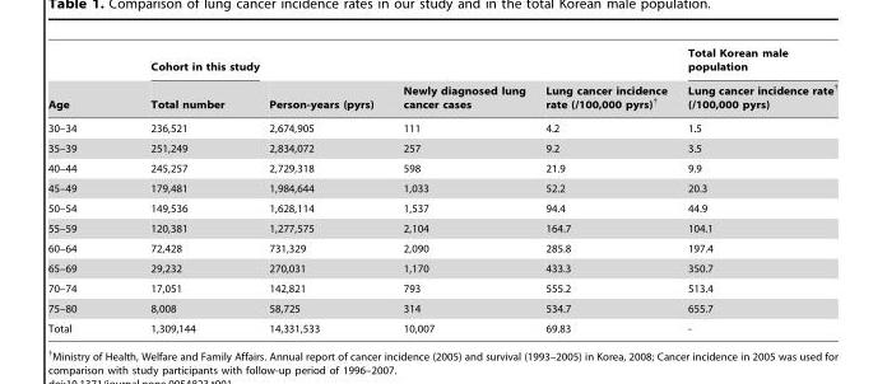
<table><thead><tr><td rowspan="2">Age</td><td rowspan="2">Cohort in this study Total number</td><td rowspan="2">Person-years (pyrs)</td><td rowspan="2">Newly diagnosed lung cancer cases</td><td rowspan="2">Lung cancer incidence rate (/100,000 pyrs)†</td><td rowspan="2">Total Korean male population Lung cancer incidence rate† (/100,000 pyrs)</td></tr><tr></tr></thead><tbody><tr><td>30–34</td><td>236,521</td><td>2,674,905</td><td>111</td><td>4.2</td><td>1.5</td></tr><tr><td>35–39</td><td>251,249</td><td>2,834,072</td><td>257</td><td>9.2</td><td>3.5</td></tr><tr><td>40–44</td><td>245,257</td><td>2,729,318</td><td>598</td><td>21.9</td><td>9.9</td></tr><tr><td>45–49</td><td>179,481</td><td>1,984,644</td><td>1,033</td><td>52.2</td><td>20.3</td></tr><tr><td>50–54</td><td>149,536</td><td>1,628,114</td><td>1,537</td><td>94.4</td><td>44.9</td></tr><tr><td>55–59</td><td>120,381</td><td>1,277,575</td><td>2,104</td><td>164.7</td><td>104.1</td></tr><tr><td>60–64</td><td>72,428</td><td>731,329</td><td>2,090</td><td>285.8</td><td>197.4</td></tr><tr><td>65–69</td><td>29,232</td><td>270,031</td><td>1,170</td><td>433.3</td><td>350.7</td></tr><tr><td>70–74</td><td>17,051</td><td>142,821</td><td>793</td><td>555.2</td><td>513.4</td></tr><tr><td>75–80</td><td>8,008</td><td>58,725</td><td>314</td><td>534.7</td><td>655.7</td></tr><tr><td>Total</td><td>1,309,144</td><td>14,331,533</td><td>10,007</td><td>69.83</td><td>-</td></tr></tbody></table>